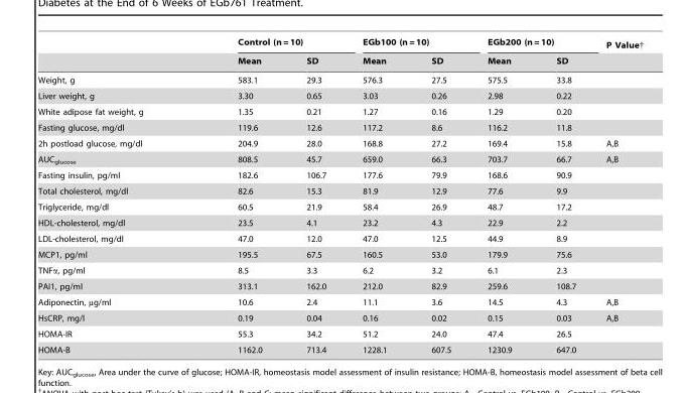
<table><thead><tr><td rowspan="2"></td><td colspan="2">Control (n = 10)</td><td colspan="2">EGb100 (n = 10)</td><td colspan="2">EGb200 (n = 10)</td><td rowspan="2">P Value†</td></tr><tr><td>Mean</td><td>SD</td><td>Mean</td><td>SD</td><td>Mean</td><td>SD</td></tr></thead><tbody><tr><td>Weight, g</td><td>583.1</td><td>29.3</td><td>576.3</td><td>27.5</td><td>575.5</td><td>33.8</td><td></td></tr><tr><td>Liver weight, g</td><td>3.30</td><td>0.65</td><td>3.03</td><td>0.26</td><td>2.98</td><td>0.22</td><td></td></tr><tr><td>White adipose fat weight, g</td><td>1.35</td><td>0.21</td><td>1.27</td><td>0.16</td><td>1.29</td><td>0.20</td><td></td></tr><tr><td>Fasting glucose, mg/dl</td><td>119.6</td><td>12.6</td><td>117.2</td><td>8.6</td><td>116.2</td><td>11.8</td><td></td></tr><tr><td>2h postload glucose, mg/dl</td><td>204.9</td><td>28.0</td><td>168.8</td><td>27.2</td><td>169.4</td><td>15.8</td><td>A,B</td></tr><tr><td>AUC<sub>glucose</sub></td><td>808.5</td><td>45.7</td><td>659.0</td><td>66.3</td><td>703.7</td><td>66.7</td><td>A,B</td></tr><tr><td>Fasting insulin, pg/ml</td><td>182.6</td><td>106.7</td><td>177.6</td><td>79.9</td><td>168.6</td><td>90.9</td><td></td></tr><tr><td>Total cholesterol, mg/dl</td><td>82.6</td><td>15.3</td><td>81.9</td><td>12.9</td><td>77.6</td><td>9.9</td><td></td></tr><tr><td>Triglyceride, mg/dl</td><td>60.5</td><td>21.9</td><td>58.4</td><td>26.9</td><td>48.7</td><td>17.2</td><td></td></tr><tr><td>HDL-cholesterol, mg/dl</td><td>23.5</td><td>4.1</td><td>23.2</td><td>4.3</td><td>22.9</td><td>2.2</td><td></td></tr><tr><td>LDL-cholesterol, mg/dl</td><td>47.0</td><td>12.0</td><td>47.0</td><td>12.5</td><td>44.9</td><td>8.9</td><td></td></tr><tr><td>MCP1, pg/ml</td><td>195.5</td><td>67.5</td><td>160.5</td><td>53.0</td><td>179.9</td><td>75.6</td><td></td></tr><tr><td>TNFα, pg/ml</td><td>8.5</td><td>3.3</td><td>6.2</td><td>3.2</td><td>6.1</td><td>2.3</td><td></td></tr><tr><td>PAI1, pg/ml</td><td>313.1</td><td>162.0</td><td>212.0</td><td>82.9</td><td>259.6</td><td>108.7</td><td></td></tr><tr><td>Adiponectin, µg/ml</td><td>10.6</td><td>2.4</td><td>11.1</td><td>3.6</td><td>14.5</td><td>4.3</td><td>A,B</td></tr><tr><td>HsCRP, mg/l</td><td>0.19</td><td>0.04</td><td>0.16</td><td>0.02</td><td>0.15</td><td>0.03</td><td>A,B</td></tr><tr><td>HOMA-IR</td><td>55.3</td><td>34.2</td><td>51.2</td><td>24.0</td><td>47.4</td><td>26.5</td><td></td></tr><tr><td>HOMA-B</td><td>1162.0</td><td>713.4</td><td>1228.1</td><td>607.5</td><td>1230.9</td><td>647.0</td><td></td></tr></tbody></table>